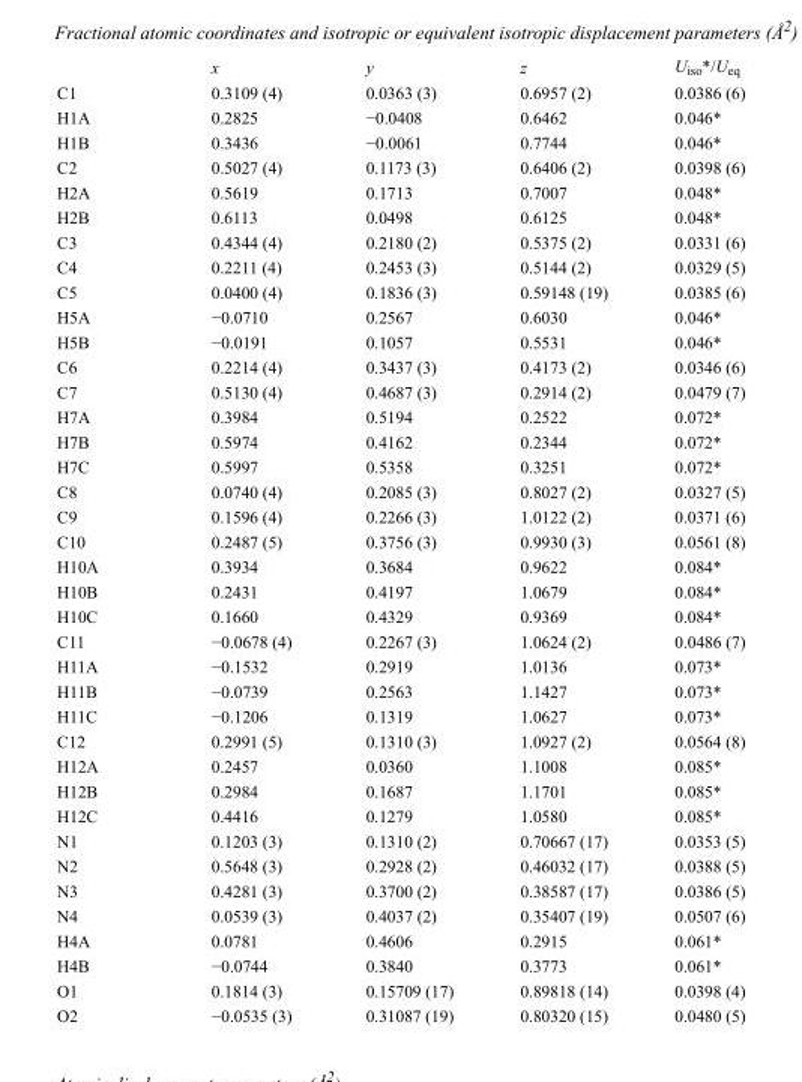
<table><thead><tr><td></td><td>x</td><td>y</td><td>z</td><td>U<sub>iso</sub>*/U<sub>eq</sub></td></tr></thead><tbody><tr><td>C1</td><td>0.3109 (4)</td><td>0.0363 (3)</td><td>0.6957 (2)</td><td>0.0386 (6)</td></tr><tr><td>H1A</td><td>0.2825</td><td>−0.0408</td><td>0.6462</td><td>0.046*</td></tr><tr><td>H1B</td><td>0.3436</td><td>−0.0061</td><td>0.7744</td><td>0.046*</td></tr><tr><td>C2</td><td>0.5027 (4)</td><td>0.1173 (3)</td><td>0.6406 (2)</td><td>0.0398 (6)</td></tr><tr><td>H2A</td><td>0.5619</td><td>0.1713</td><td>0.7007</td><td>0.048*</td></tr><tr><td>H2B</td><td>0.6113</td><td>0.0498</td><td>0.6125</td><td>0.048*</td></tr><tr><td>C3</td><td>0.4344 (4)</td><td>0.2180 (2)</td><td>0.5375 (2)</td><td>0.0331 (6)</td></tr><tr><td>C4</td><td>0.2211 (4)</td><td>0.2453 (3)</td><td>0.5144 (2)</td><td>0.0329 (5)</td></tr><tr><td>C5</td><td>0.0400 (4)</td><td>0.1836 (3)</td><td>0.59148 (19)</td><td>0.0385 (6)</td></tr><tr><td>H5A</td><td>−0.0710</td><td>0.2567</td><td>0.6030</td><td>0.046*</td></tr><tr><td>H5B</td><td>−0.0191</td><td>0.1057</td><td>0.5531</td><td>0.046*</td></tr><tr><td>C6</td><td>0.2214 (4)</td><td>0.3437 (3)</td><td>0.4173 (2)</td><td>0.0346 (6)</td></tr><tr><td>C7</td><td>0.5130 (4)</td><td>0.4687 (3)</td><td>0.2914 (2)</td><td>0.0479 (7)</td></tr><tr><td>H7A</td><td>0.3984</td><td>0.5194</td><td>0.2522</td><td>0.072*</td></tr><tr><td>H7B</td><td>0.5974</td><td>0.4162</td><td>0.2344</td><td>0.072*</td></tr><tr><td>H7C</td><td>0.5997</td><td>0.5358</td><td>0.3251</td><td>0.072*</td></tr><tr><td>C8</td><td>0.0740 (4)</td><td>0.2085 (3)</td><td>0.8027 (2)</td><td>0.0327 (5)</td></tr><tr><td>C9</td><td>0.1596 (4)</td><td>0.2266 (3)</td><td>1.0122 (2)</td><td>0.0371 (6)</td></tr><tr><td>C10</td><td>0.2487 (5)</td><td>0.3756 (3)</td><td>0.9930 (3)</td><td>0.0561 (8)</td></tr><tr><td>H10A</td><td>0.3934</td><td>0.3684</td><td>0.9622</td><td>0.084*</td></tr><tr><td>H10B</td><td>0.2431</td><td>0.4197</td><td>1.0679</td><td>0.084*</td></tr><tr><td>H10C</td><td>0.1660</td><td>0.4329</td><td>0.9369</td><td>0.084*</td></tr><tr><td>C11</td><td>−0.0678 (4)</td><td>0.2267 (3)</td><td>1.0624 (2)</td><td>0.0486 (7)</td></tr><tr><td>H11A</td><td>−0.1532</td><td>0.2919</td><td>1.0136</td><td>0.073*</td></tr><tr><td>H11B</td><td>−0.0739</td><td>0.2563</td><td>1.1427</td><td>0.073*</td></tr><tr><td>H11C</td><td>−0.1206</td><td>0.1319</td><td>1.0627</td><td>0.073*</td></tr><tr><td>C12</td><td>0.2991 (5)</td><td>0.1310 (3)</td><td>1.0927 (2)</td><td>0.0564 (8)</td></tr><tr><td>H12A</td><td>0.2457</td><td>0.0360</td><td>1.1008</td><td>0.085*</td></tr><tr><td>H12B</td><td>0.2984</td><td>0.1687</td><td>1.1701</td><td>0.085*</td></tr><tr><td>H12C</td><td>0.4416</td><td>0.1279</td><td>1.0580</td><td>0.085*</td></tr><tr><td>N1</td><td>0.1203 (3)</td><td>0.1310 (2)</td><td>0.70667 (17)</td><td>0.0353 (5)</td></tr><tr><td>N2</td><td>0.5648 (3)</td><td>0.2928 (2)</td><td>0.46032 (17)</td><td>0.0388 (5)</td></tr><tr><td>N3</td><td>0.4281 (3)</td><td>0.3700 (2)</td><td>0.38587 (17)</td><td>0.0386 (5)</td></tr><tr><td>N4</td><td>0.0539 (3)</td><td>0.4037 (2)</td><td>0.35407 (19)</td><td>0.0507 (6)</td></tr><tr><td>H4A</td><td>0.0781</td><td>0.4606</td><td>0.2915</td><td>0.061*</td></tr><tr><td>H4B</td><td>−0.0744</td><td>0.3840</td><td>0.3773</td><td>0.061*</td></tr><tr><td>O1</td><td>0.1814 (3)</td><td>0.15709 (17)</td><td>0.89818 (14)</td><td>0.0398 (4)</td></tr><tr><td>O2</td><td>−0.0535 (3)</td><td>0.31087 (19)</td><td>0.80320 (15)</td><td>0.0480 (5)</td></tr></tbody></table>